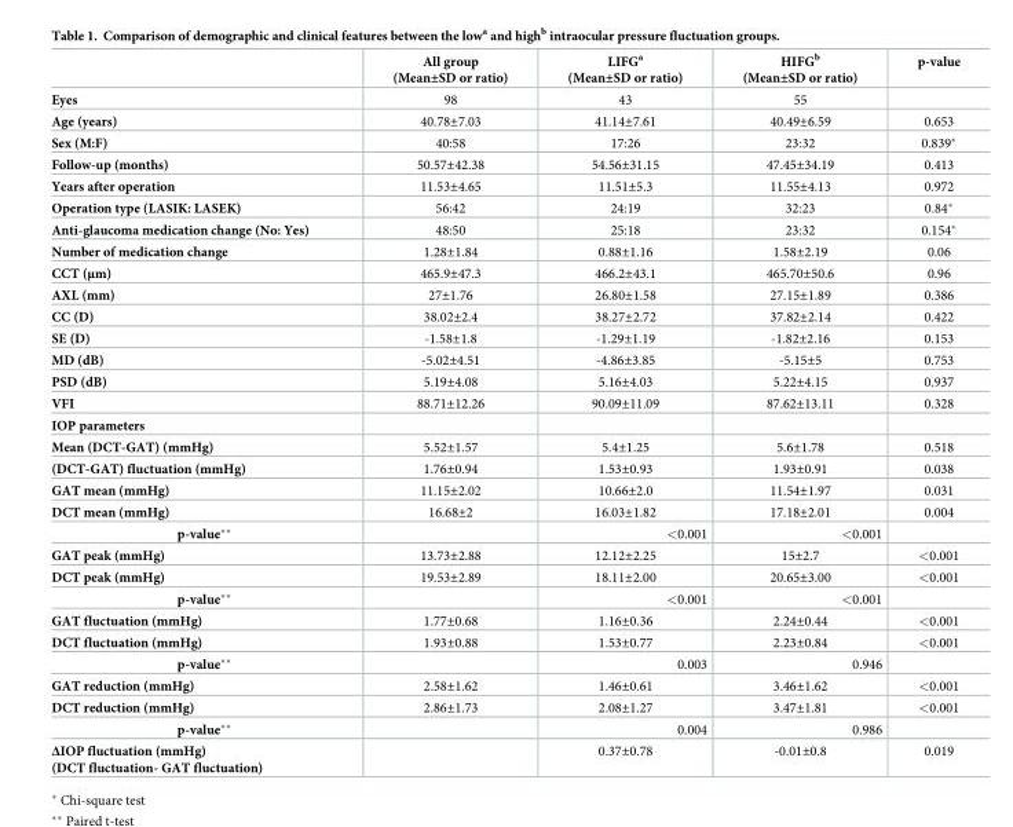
<table><thead><tr><td></td><td>All group (Mean±SD or ratio)</td><td>LIFG<sup>a</sup> (Mean±SD or ratio)</td><td>HIFG<sup>b</sup> (Mean±SD or ratio)</td><td>p-value</td></tr></thead><tbody><tr><td>Eyes</td><td>98</td><td>43</td><td>55</td><td></td></tr><tr><td>Age (years)</td><td>40.78±7.03</td><td>41.14±7.61</td><td>40.49±6.59</td><td>0.653</td></tr><tr><td>Sex (M:F)</td><td>40:58</td><td>17:26</td><td>23:32</td><td>0.839*</td></tr><tr><td>Follow-up (months)</td><td>50.57±42.38</td><td>54.56±31.15</td><td>47.45±34.19</td><td>0.413</td></tr><tr><td>Years after operation</td><td>11.53±4.65</td><td>11.51±5.3</td><td>11.55±4.13</td><td>0.972</td></tr><tr><td>Operation type (LASIK: LASEK)</td><td>56:42</td><td>24:19</td><td>32:23</td><td>0.84*</td></tr><tr><td>Anti-glaucoma medication change (No: Yes)</td><td>48:50</td><td>25:18</td><td>23:32</td><td>0.154*</td></tr><tr><td>Number of medication change</td><td>1.28±1.84</td><td>0.88±1.16</td><td>1.58±2.19</td><td>0.06</td></tr><tr><td>CCT (μm)</td><td>465.9±47.3</td><td>466.2±43.1</td><td>465.70±50.6</td><td>0.96</td></tr><tr><td>AXL (mm)</td><td>27±1.76</td><td>26.80±1.58</td><td>27.15±1.89</td><td>0.386</td></tr><tr><td>CC (D)</td><td>38.02±2.4</td><td>38.27±2.72</td><td>37.82±2.14</td><td>0.422</td></tr><tr><td>SE (D)</td><td>-1.58±1.8</td><td>-1.29±1.19</td><td>-1.82±2.16</td><td>0.153</td></tr><tr><td>MD (dB)</td><td>-5.02±4.51</td><td>-4.86±3.85</td><td>-5.15±5</td><td>0.753</td></tr><tr><td>PSD (dB)</td><td>5.19±4.08</td><td>5.16±4.03</td><td>5.22±4.15</td><td>0.937</td></tr><tr><td>VFI</td><td>88.71±12.26</td><td>90.09±11.09</td><td>87.62±13.11</td><td>0.328</td></tr><tr><td colspan="5">IOP parameters</td></tr><tr><td>Mean (DCT-GAT) (mmHg)</td><td>5.52±1.57</td><td>5.4±1.25</td><td>5.6±1.78</td><td>0.518</td></tr><tr><td>(DCT-GAT) fluctuation (mmHg)</td><td>1.76±0.94</td><td>1.53±0.93</td><td>1.93±0.91</td><td>0.038</td></tr><tr><td>GAT mean (mmHg)</td><td>11.15±2.02</td><td>10.66±2.0</td><td>11.54±1.97</td><td>0.031</td></tr><tr><td>DCT mean (mmHg)</td><td>16.68±2</td><td>16.03±1.82</td><td>17.18±2.01</td><td>0.004</td></tr><tr><td>p-value**</td><td></td><td>&lt;0.001</td><td>&lt;0.001</td><td></td></tr><tr><td>GAT peak (mmHg)</td><td>13.73±2.88</td><td>12.12±2.25</td><td>15±2.7</td><td>&lt;0.001</td></tr><tr><td>DCT peak (mmHg)</td><td>19.53±2.89</td><td>18.11±2.00</td><td>20.65±3.00</td><td>&lt;0.001</td></tr><tr><td>p-value**</td><td></td><td>&lt;0.001</td><td>&lt;0.001</td><td></td></tr><tr><td>GAT fluctuation (mmHg)</td><td>1.77±0.68</td><td>1.16±0.36</td><td>2.24±0.44</td><td>&lt;0.001</td></tr><tr><td>DCT fluctuation (mmHg)</td><td>1.93±0.88</td><td>1.53±0.77</td><td>2.23±0.84</td><td>&lt;0.001</td></tr><tr><td>p-value**</td><td></td><td>0.003</td><td>0.946</td><td></td></tr><tr><td>GAT reduction (mmHg)</td><td>2.58±1.62</td><td>1.46±0.61</td><td>3.46±1.62</td><td>&lt;0.001</td></tr><tr><td>DCT reduction (mmHg)</td><td>2.86±1.73</td><td>2.08±1.27</td><td>3.47±1.81</td><td>&lt;0.001</td></tr><tr><td>p-value**</td><td></td><td>0.004</td><td>0.986</td><td></td></tr><tr><td>ΔIOP fluctuation (mmHg) (DCT fluctuation- GAT fluctuation)</td><td></td><td>0.37±0.78</td><td>-0.01±0.8</td><td>0.019</td></tr></tbody></table>